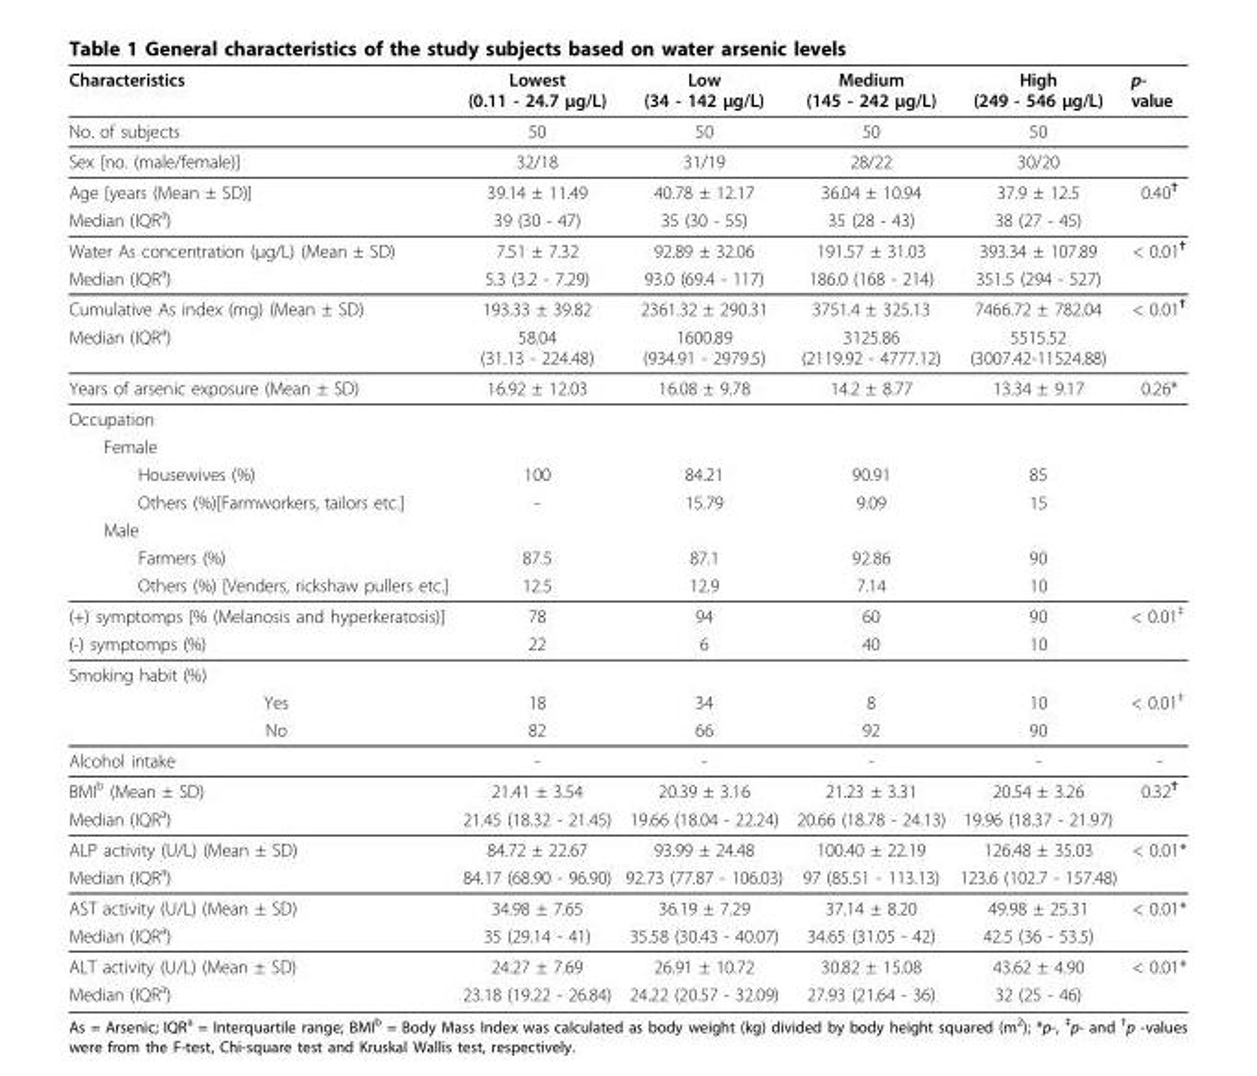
<table><thead><tr><td>Characteristics</td><td>Lowest (0.11 - 24.7 μg/L)</td><td>Low (34 - 142 μg/L)</td><td>Medium (145 - 242 μg/L)</td><td>High (249 - 546 μg/L)</td><td>p- value</td></tr></thead><tbody><tr><td>No. of subjects</td><td>50</td><td>50</td><td>50</td><td>50</td><td></td></tr><tr><td>Sex [no. (male/female)]</td><td>32/18</td><td>31/19</td><td>28/22</td><td>30/20</td><td></td></tr><tr><td>Age [years (Mean ± SD)]</td><td>39.14 ± 11.49</td><td>40.78 ± 12.17</td><td>36.04 ± 10.94</td><td>37.9 ± 12.5</td><td>0.40<sup>†</sup></td></tr><tr><td>Median (IQR<sup>a</sup>)</td><td>39 (30 - 47)</td><td>35 (30 - 55)</td><td>35 (28 - 43)</td><td>38 (27 - 45)</td><td></td></tr><tr><td>Water As concentration (μg/L) (Mean ± SD)</td><td>7.51 ± 7.32</td><td>92.89 ± 32.06</td><td>191.57 ± 31.03</td><td>393.34 ± 107.89</td><td>&lt; 0.01<sup>†</sup></td></tr><tr><td>Median (IQR<sup>a</sup>)</td><td>5.3 (3.2 - 7.29)</td><td>93.0 (69.4 - 117)</td><td>186.0 (168 - 214)</td><td>351.5 (294 - 527)</td><td></td></tr><tr><td>Cumulative As index (mg) (Mean ± SD)</td><td>193.33 ± 39.82</td><td>2361.32 ± 290.31</td><td>3751.4 ± 325.13</td><td>7466.72 ± 782.04</td><td>&lt; 0.01<sup>†</sup></td></tr><tr><td>Median (IQR<sup>a</sup>)</td><td>58.04 (31.13 - 224.48)</td><td>1600.89 (934.91 - 2979.5)</td><td>3125.86 (2119.92 - 4777.12)</td><td>5515.52 (3007.42-11524.88)</td><td></td></tr><tr><td>Years of arsenic exposure (Mean ± SD)</td><td>16.92 ± 12.03</td><td>16.08 ± 9.78</td><td>14.2 ± 8.77</td><td>13.34 ± 9.17</td><td>0.26*</td></tr><tr><td colspan="6">Occupation</td></tr><tr><td colspan="6">Female</td></tr><tr><td>Housewives (%)</td><td>100</td><td>84.21</td><td>90.91</td><td>85</td><td></td></tr><tr><td>Others (%)[Farmworkers, tailors etc.]</td><td>-</td><td>15.79</td><td>9.09</td><td>15</td><td></td></tr><tr><td colspan="6">Male</td></tr><tr><td>Farmers (%)</td><td>87.5</td><td>87.1</td><td>92.86</td><td>90</td><td></td></tr><tr><td>Others (%) [Venders, rickshaw pullers etc.]</td><td>12.5</td><td>12.9</td><td>7.14</td><td>10</td><td></td></tr><tr><td>(+) symptomps [% (Melanosis and hyperkeratosis)]</td><td>78</td><td>94</td><td>60</td><td>90</td><td>&lt; 0.01<sup>‡</sup></td></tr><tr><td>(-) symptomps (%)</td><td>22</td><td>6</td><td>40</td><td>10</td><td></td></tr><tr><td colspan="6">Smoking habit (%)</td></tr><tr><td>Yes</td><td>18</td><td>34</td><td>8</td><td>10</td><td>&lt; 0.01<sup>‡</sup></td></tr><tr><td>No</td><td>82</td><td>66</td><td>92</td><td>90</td><td></td></tr><tr><td>Alcohol intake</td><td>-</td><td>-</td><td>-</td><td>-</td><td>-</td></tr><tr><td>BMI<sup>b</sup> (Mean ± SD)</td><td>21.41 ± 3.54</td><td>20.39 ± 3.16</td><td>21.23 ± 3.31</td><td>20.54 ± 3.26</td><td>0.32<sup>†</sup></td></tr><tr><td>Median (IQR<sup>a</sup>)</td><td>21.45 (18.32 - 21.45)</td><td>19.66 (18.04 - 22.24)</td><td>20.66 (18.78 - 24.13)</td><td>19.96 (18.37 - 21.97)</td><td></td></tr><tr><td>ALP activity (U/L) (Mean ± SD)</td><td>84.72 ± 22.67</td><td>93.99 ± 24.48</td><td>100.40 ± 22.19</td><td>126.48 ± 35.03</td><td>&lt; 0.01*</td></tr><tr><td>Median (IQR<sup>a</sup>)</td><td>84.17 (68.90 - 96.90)</td><td>92.73 (77.87 - 106.03)</td><td>97 (85.51 - 113.13)</td><td>123.6 (102.7 - 157.48)</td><td></td></tr><tr><td>AST activity (U/L) (Mean ± SD)</td><td>34.98 ± 7.65</td><td>36.19 ± 7.29</td><td>37.14 ± 8.20</td><td>49.98 ± 25.31</td><td>&lt; 0.01*</td></tr><tr><td>Median (IQR<sup>a</sup>)</td><td>35 (29.14 - 41)</td><td>35.58 (30.43 - 40.07)</td><td>34.65 (31.05 - 42)</td><td>42.5 (36 - 53.5)</td><td></td></tr><tr><td>ALT activity (U/L) (Mean ± SD)</td><td>24.27 ± 7.69</td><td>26.91 ± 10.72</td><td>30.82 ± 15.08</td><td>43.62 ± 4.90</td><td>&lt; 0.01*</td></tr><tr><td>Median (IQR<sup>a</sup>)</td><td>23.18 (19.22 - 26.84)</td><td>24.22 (20.57 - 32.09)</td><td>27.93 (21.64 - 36)</td><td>32 (25 - 46)</td><td></td></tr></tbody></table>